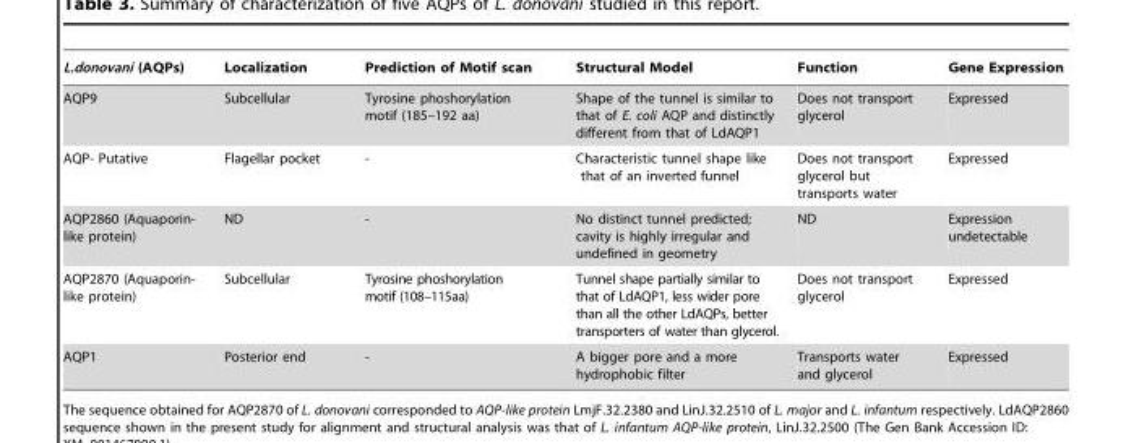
<table><thead><tr><td>L.donovani (AQPs)</td><td>Localization</td><td>Prediction of Motif scan</td><td>Structural Model</td><td>Function</td><td>Gene Expression</td></tr></thead><tbody><tr><td>AQP9</td><td>Subcellular</td><td>Tyrosine phoshorylation motif (185–192 aa)</td><td>Shape of the tunnel is similar to that of E. coli AQP and distinctly different from that of LdAQP1</td><td>Does not transport glycerol</td><td>Expressed</td></tr><tr><td>AQP- Putative</td><td>Flagellar pocket</td><td>-</td><td>Characteristic tunnel shape like that of an inverted funnel</td><td>Does not transport glycerol but transports water</td><td>Expressed</td></tr><tr><td>AQP2860 (Aquaporin- like protein)</td><td>ND</td><td>-</td><td>No distinct tunnel predicted; cavity is highly irregular and undefined in geometry</td><td>ND</td><td>Expression undetectable</td></tr><tr><td>AQP2870 (Aquaporin- like protein)</td><td>Subcellular</td><td>Tyrosine phoshorylation motif (108–115aa)</td><td>Tunnel shape partially similar to that of LdAQP1, less wider pore than all the other LdAQPs, better transporters of water than glycerol.</td><td>Does not transport glycerol</td><td>Expressed</td></tr><tr><td>AQP1</td><td>Posterior end</td><td>-</td><td>A bigger pore and a more hydrophobic filter</td><td>Transports water and glycerol</td><td>Expressed</td></tr></tbody></table>